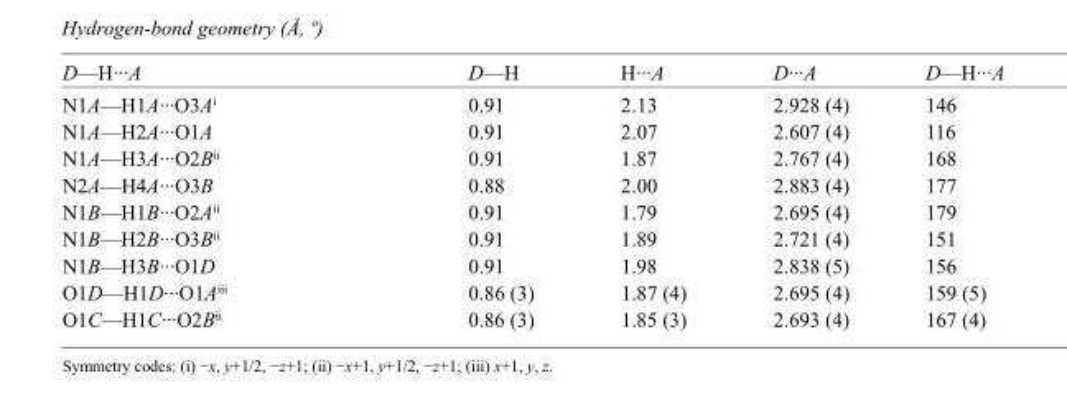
<table><tbody><tr><td>D—H···A</td><td>D—H</td><td>H···A</td><td>D···A</td><td>D—H···A</td></tr><tr><td>N1A—H1A···O3A<sup>i</sup></td><td>0.91</td><td>2.13</td><td>2.928 (4)</td><td>146</td></tr><tr><td>N1A—H2A···O1A</td><td>0.91</td><td>2.07</td><td>2.607 (4)</td><td>116</td></tr><tr><td>N1A—H3A···O2B<sup>ii</sup></td><td>0.91</td><td>1.87</td><td>2.767 (4)</td><td>168</td></tr><tr><td>N2A—H4A···O3B</td><td>0.88</td><td>2.00</td><td>2.883 (4)</td><td>177</td></tr><tr><td>N1B—H1B···O2A<sup>ii</sup></td><td>0.91</td><td>1.79</td><td>2.695 (4)</td><td>179</td></tr><tr><td>N1B—H2B···O3B<sup>ii</sup></td><td>0.91</td><td>1.89</td><td>2.721 (4)</td><td>151</td></tr><tr><td>N1B—H3B···O1D</td><td>0.91</td><td>1.98</td><td>2.838 (5)</td><td>156</td></tr><tr><td>O1D—H1D···O1A<sup>iii</sup></td><td>0.86 (3)</td><td>1.87 (4)</td><td>2.695 (4)</td><td>159 (5)</td></tr><tr><td>O1C—H1C···O2B<sup>ii</sup></td><td>0.86 (3)</td><td>1.85 (3)</td><td>2.693 (4)</td><td>167 (4)</td></tr></tbody></table>